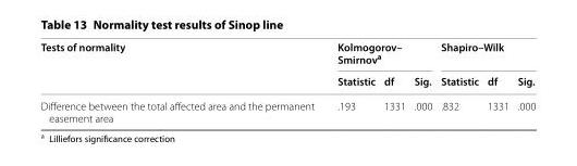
<table><thead><tr><td rowspan="2">Tests of normality</td><td colspan="3">Kolmogorov– Smirnov<sup>a</sup></td><td colspan="3">Shapiro–Wilk</td></tr><tr><td>Statistic</td><td>df</td><td>Sig.</td><td>Statistic</td><td>df</td><td>Sig.</td></tr></thead><tbody><tr><td>Difference between the total affected area and the permanent easement area</td><td>.193</td><td>1331</td><td>.000</td><td>.832</td><td>1331</td><td>.000</td></tr></tbody></table>